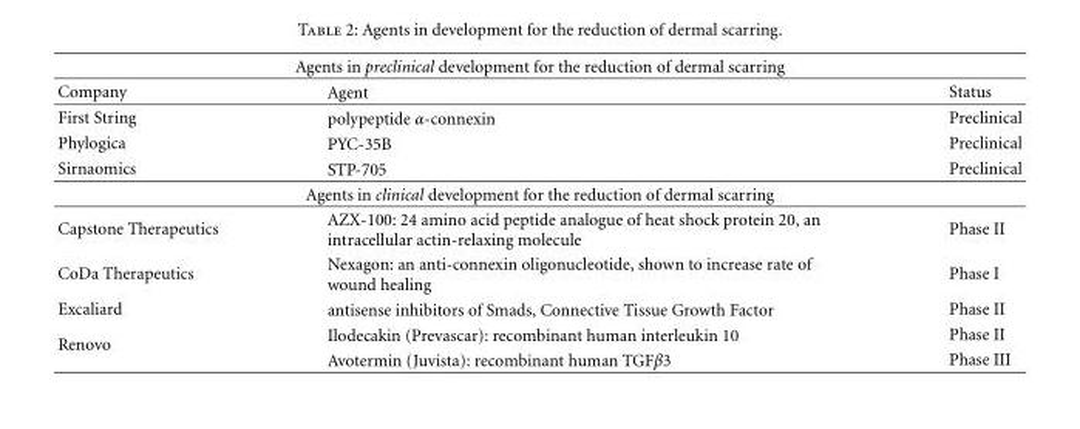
<table><thead><tr><td colspan="3">Agents in preclinical development for the reduction of dermal scarring</td></tr><tr><td>Company</td><td>Agent</td><td>Status</td></tr></thead><tbody><tr><td>First String</td><td>polypeptide α-connexin</td><td>Preclinical</td></tr><tr><td>Phylogica</td><td>PYC-35B</td><td>Preclinical</td></tr><tr><td>Sirnaomics</td><td>STP-705</td><td>Preclinical</td></tr><tr><td colspan="3">Agents in clinical development for the reduction of dermal scarring</td></tr><tr><td>Capstone Therapeutics</td><td>AZX-100: 24 amino acid peptide analogue of heat shock protein 20, an intracellular actin-relaxing molecule</td><td>Phase II</td></tr><tr><td>CoDa Therapeutics</td><td>Nexagon: an anti-connexin oligonucleotide, shown to increase rate of wound healing</td><td>Phase I</td></tr><tr><td>Excaliard</td><td>antisense inhibitors of Smads, Connective Tissue Growth Factor</td><td>Phase II</td></tr><tr><td rowspan="2">Renovo</td><td>Ilodecakin (Prevascar): recombinant human interleukin 10</td><td>Phase II</td></tr><tr><td>Avotermin (Juvista): recombinant human TGFβ3</td><td>Phase III</td></tr></tbody></table>